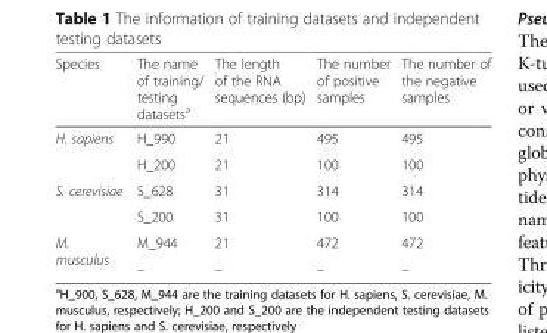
<table><thead><tr><td>Species</td><td>The name of training/ testing datasets<sup>a</sup></td><td>The length of the RNA sequences (bp)</td><td>The number of positive samples</td><td>The number of the negative samples</td></tr></thead><tbody><tr><td rowspan="2">H. sapiens</td><td>H_990</td><td>21</td><td>495</td><td>495</td></tr><tr><td>H_200</td><td>21</td><td>100</td><td>100</td></tr><tr><td rowspan="2">S. cerevisiae</td><td>S_628</td><td>31</td><td>314</td><td>314</td></tr><tr><td>S_200</td><td>31</td><td>100</td><td>100</td></tr><tr><td rowspan="2">M. musculus</td><td>M_944</td><td>21</td><td>472</td><td>472</td></tr><tr><td>–</td><td>–</td><td>–</td><td>–</td></tr></tbody></table>